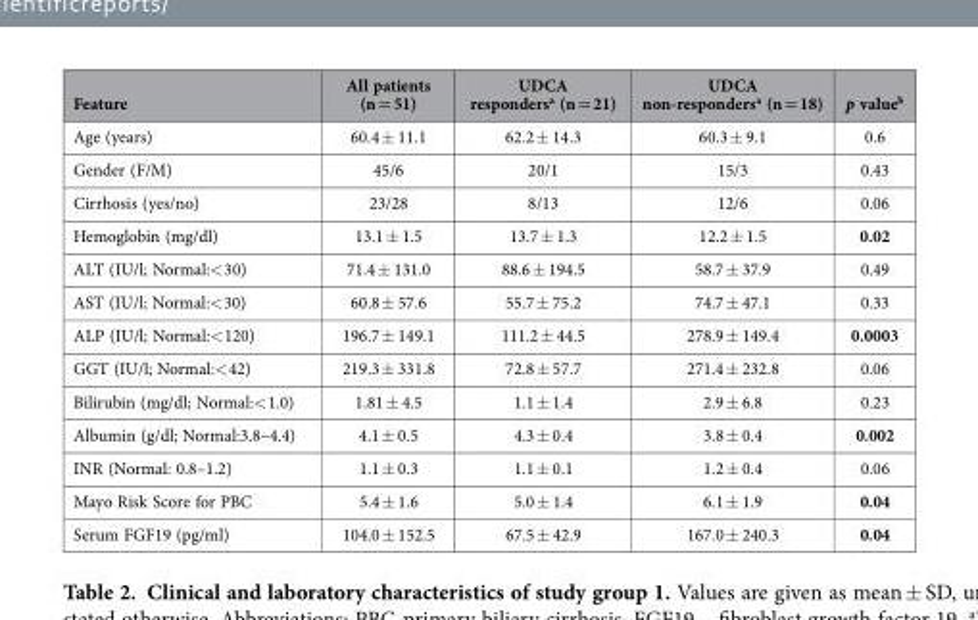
<table><thead><tr><td>Feature</td><td>All patients (n = 51)</td><td>UDCA responders<sup>a</sup> (n = 21)</td><td>UDCA non-responders<sup>a</sup> (n = 18)</td><td>p value<sup>b</sup></td></tr></thead><tbody><tr><td>Age (years)</td><td>60.4 ± 11.1</td><td>62.2 ± 14.3</td><td>60.3 ± 9.1</td><td>0.6</td></tr><tr><td>Gender (F/M)</td><td>45/6</td><td>20/1</td><td>15/3</td><td>0.43</td></tr><tr><td>Cirrhosis (yes/no)</td><td>23/28</td><td>8/13</td><td>12/6</td><td>0.06</td></tr><tr><td>Hemoglobin (mg/dl)</td><td>13.1 ± 1.5</td><td>13.7 ± 1.3</td><td>12.2 ± 1.5</td><td>0.02</td></tr><tr><td>ALT (IU/l; Normal:&lt; 30)</td><td>71.4 ± 131.0</td><td>88.6 ± 194.5</td><td>58.7 ± 37.9</td><td>0.49</td></tr><tr><td>AST (IU/l; Normal:&lt; 30)</td><td>60.8 ± 57.6</td><td>55.7 ± 75.2</td><td>74.7 ± 47.1</td><td>0.33</td></tr><tr><td>ALP (IU/l; Normal:&lt; 120)</td><td>196.7 ± 149.1</td><td>111.2 ± 44.5</td><td>278.9 ± 149.4</td><td>0.0003</td></tr><tr><td>GGT (IU/l; Normal:&lt; 42)</td><td>219.3 ± 331.8</td><td>72.8 ± 57.7</td><td>271.4 ± 232.8</td><td>0.06</td></tr><tr><td>Bilirubin (mg/dl; Normal:&lt; 1.0)</td><td>1.81 ± 4.5</td><td>1.1 ± 1.4</td><td>2.9 ± 6.8</td><td>0.23</td></tr><tr><td>Albumin (g/dl; Normal:3.8–4.4)</td><td>4.1 ± 0.5</td><td>4.3 ± 0.4</td><td>3.8 ± 0.4</td><td>0.002</td></tr><tr><td>INR (Normal: 0.8–1.2)</td><td>1.1 ± 0.3</td><td>1.1 ± 0.1</td><td>1.2 ± 0.4</td><td>0.06</td></tr><tr><td>Mayo Risk Score for PBC</td><td>5.4 ± 1.6</td><td>5.0 ± 1.4</td><td>6.1 ± 1.9</td><td>0.04</td></tr><tr><td>Serum FGF19 (pg/ml)</td><td>104.0 ± 152.5</td><td>67.5 ± 42.9</td><td>167.0 ± 240.3</td><td>0.04</td></tr></tbody></table>